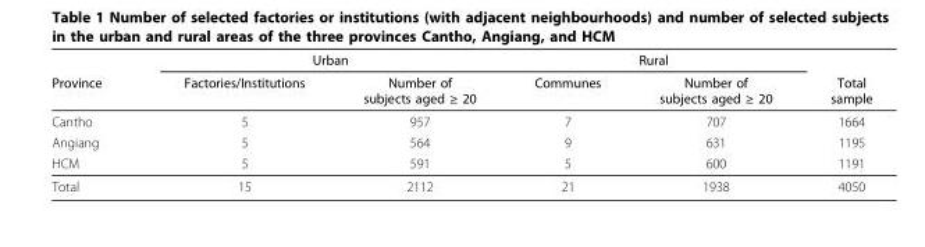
<table><thead><tr><td rowspan="2">Province</td><td colspan="2">Urban</td><td colspan="2">Rural</td><td rowspan="2">Total sample</td></tr><tr><td>Factories/Institutions</td><td>Number of subjects aged ≥ 20</td><td>Communes</td><td>Number of subjects aged ≥ 20</td></tr></thead><tbody><tr><td>Cantho</td><td>5</td><td>957</td><td>7</td><td>707</td><td>1664</td></tr><tr><td>Angiang</td><td>5</td><td>564</td><td>9</td><td>631</td><td>1195</td></tr><tr><td>HCM</td><td>5</td><td>591</td><td>5</td><td>600</td><td>1191</td></tr><tr><td>Total</td><td>15</td><td>2112</td><td>21</td><td>1938</td><td>4050</td></tr></tbody></table>